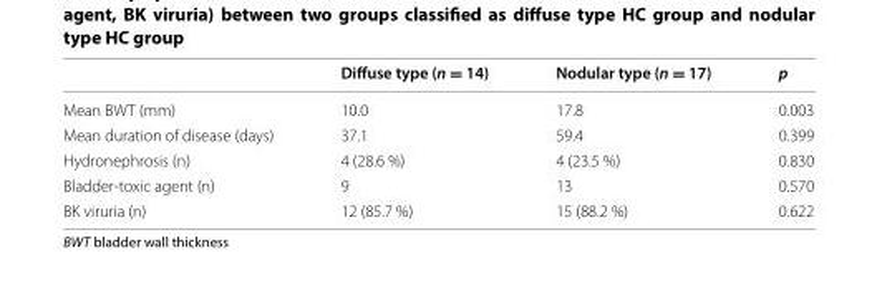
<table><thead><tr><td></td><td>Diffuse type (n = 14)</td><td>Nodular type (n = 17)</td><td>p</td></tr></thead><tbody><tr><td>Mean BWT (mm)</td><td>10.0</td><td>17.8</td><td>0.003</td></tr><tr><td>Mean duration of disease (days)</td><td>37.1</td><td>59.4</td><td>0.399</td></tr><tr><td>Hydronephrosis (n)</td><td>4 (28.6 %)</td><td>4 (23.5 %)</td><td>0.830</td></tr><tr><td>Bladder-toxic agent (n)</td><td>9</td><td>13</td><td>0.570</td></tr><tr><td>BK viruria (n)</td><td>12 (85.7 %)</td><td>15 (88.2 %)</td><td>0.622</td></tr></tbody></table>